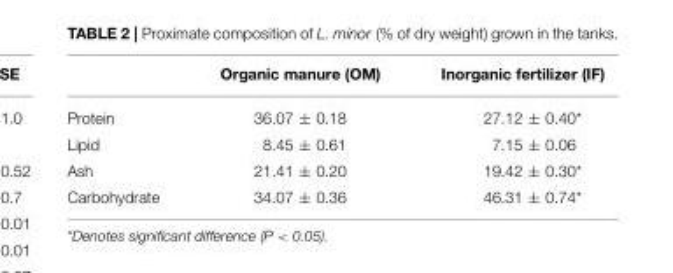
<table><thead><tr><td></td><td>Organic manure (OM)</td><td>Inorganic fertilizer (IF)</td></tr></thead><tbody><tr><td>Protein</td><td>36.07 ± 0.18</td><td>27.12 ± 0.40*</td></tr><tr><td>Lipid</td><td>8.45 ± 0.61</td><td>7.15 ± 0.06</td></tr><tr><td>Ash</td><td>21.41 ± 0.20</td><td>19.42 ± 0.30*</td></tr><tr><td>Carbohydrate</td><td>34.07 ± 0.36</td><td>46.31 ± 0.74*</td></tr></tbody></table>